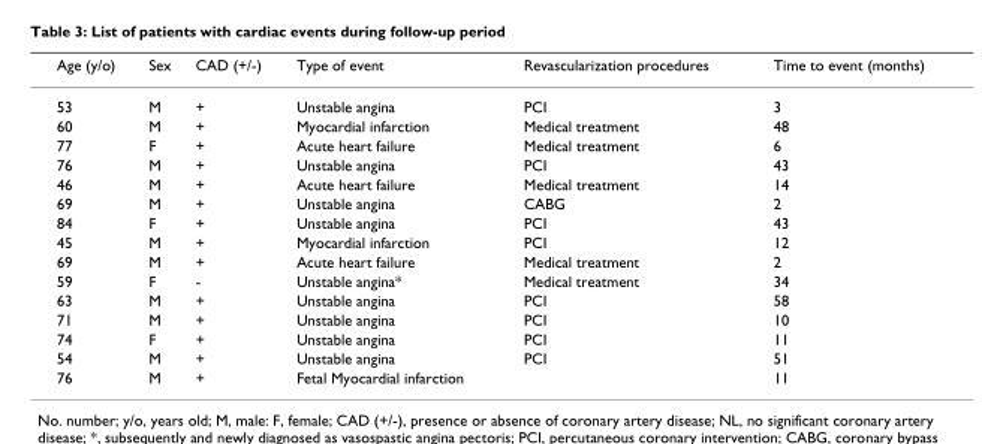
<table><thead><tr><td>Age (y/o)</td><td>Sex</td><td>CAD (+/-)</td><td>Type of event</td><td>Revascularization procedures</td><td>Time to event (months)</td></tr></thead><tbody><tr><td>53</td><td>M</td><td>+</td><td>Unstable angina</td><td>PCI</td><td>3</td></tr><tr><td>60</td><td>M</td><td>+</td><td>Myocardial infarction</td><td>Medical treatment</td><td>48</td></tr><tr><td>77</td><td>F</td><td>+</td><td>Acute heart failure</td><td>Medical treatment</td><td>6</td></tr><tr><td>76</td><td>M</td><td>+</td><td>Unstable angina</td><td>PCI</td><td>43</td></tr><tr><td>46</td><td>M</td><td>+</td><td>Acute heart failure</td><td>Medical treatment</td><td>14</td></tr><tr><td>69</td><td>M</td><td>+</td><td>Unstable angina</td><td>CABG</td><td>2</td></tr><tr><td>84</td><td>F</td><td>+</td><td>Unstable angina</td><td>PCI</td><td>43</td></tr><tr><td>45</td><td>M</td><td>+</td><td>Myocardial infarction</td><td>PCI</td><td>12</td></tr><tr><td>69</td><td>M</td><td>+</td><td>Acute heart failure</td><td>Medical treatment</td><td>2</td></tr><tr><td>59</td><td>F</td><td>-</td><td>Unstable angina*</td><td>Medical treatment</td><td>34</td></tr><tr><td>63</td><td>M</td><td>+</td><td>Unstable angina</td><td>PCI</td><td>58</td></tr><tr><td>71</td><td>M</td><td>+</td><td>Unstable angina</td><td>PCI</td><td>10</td></tr><tr><td>74</td><td>F</td><td>+</td><td>Unstable angina</td><td>PCI</td><td>11</td></tr><tr><td>54</td><td>M</td><td>+</td><td>Unstable angina</td><td>PCI</td><td>51</td></tr><tr><td>76</td><td>M</td><td>+</td><td>Fetal Myocardial infarction</td><td></td><td>11</td></tr></tbody></table>